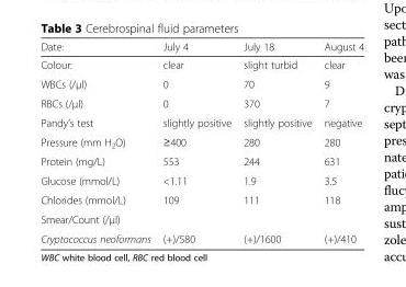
<table><thead><tr><td>Date:</td><td>July 4</td><td>July 18</td><td>August 4</td></tr></thead><tbody><tr><td>Colour:</td><td>clear</td><td>slight turbid</td><td>clear</td></tr><tr><td>WBCs (/μl)</td><td>0</td><td>70</td><td>9</td></tr><tr><td>RBCs (/μl)</td><td>0</td><td>370</td><td>7</td></tr><tr><td>Pandy’s test</td><td>slightly positive</td><td>slightly positive</td><td>negative</td></tr><tr><td>Pressure (mm H<sub>2</sub>O)</td><td>≥400</td><td>280</td><td>280</td></tr><tr><td>Protein (mg/L)</td><td>553</td><td>244</td><td>631</td></tr><tr><td>Glucose (mmol/L)</td><td>&lt;1.11</td><td>1.9</td><td>3.5</td></tr><tr><td>Chlorides (mmol/L)</td><td>109</td><td>111</td><td>118</td></tr><tr><td colspan="4">Smear/Count (/μl)</td></tr><tr><td>Cryptococcus neoformans</td><td>(+)/580</td><td>(+)/1600</td><td>(+)/410</td></tr></tbody></table>